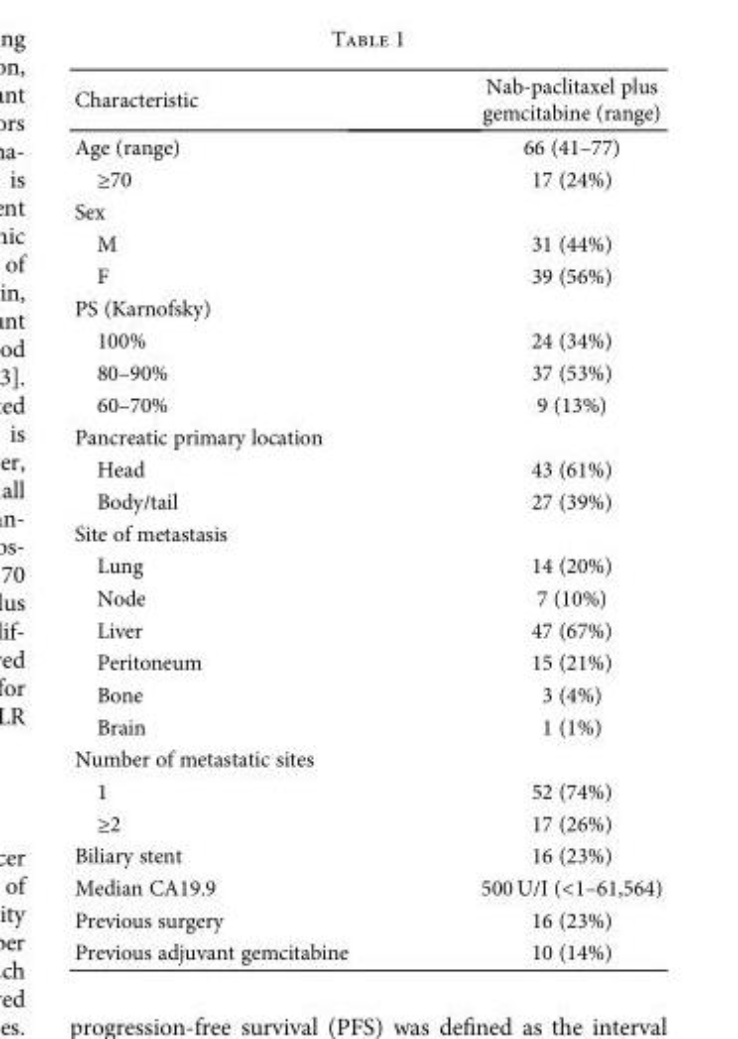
<table><thead><tr><td>Characteristic</td><td>Nab-paclitaxel plus gemcitabine (range)</td></tr></thead><tbody><tr><td>Age (range)</td><td>66 (41–77)</td></tr><tr><td>≥70</td><td>17 (24%)</td></tr><tr><td colspan="2">Sex</td></tr><tr><td>M</td><td>31 (44%)</td></tr><tr><td>F</td><td>39 (56%)</td></tr><tr><td colspan="2">PS (Karnofsky)</td></tr><tr><td>100%</td><td>24 (34%)</td></tr><tr><td>80–90%</td><td>37 (53%)</td></tr><tr><td>60–70%</td><td>9 (13%)</td></tr><tr><td colspan="2">Pancreatic primary location</td></tr><tr><td>Head</td><td>43 (61%)</td></tr><tr><td>Body/tail</td><td>27 (39%)</td></tr><tr><td colspan="2">Site of metastasis</td></tr><tr><td>Lung</td><td>14 (20%)</td></tr><tr><td>Node</td><td>7 (10%)</td></tr><tr><td>Liver</td><td>47 (67%)</td></tr><tr><td>Peritoneum</td><td>15 (21%)</td></tr><tr><td>Bone</td><td>3 (4%)</td></tr><tr><td>Brain</td><td>1 (1%)</td></tr><tr><td colspan="2">Number of metastatic sites</td></tr><tr><td>1</td><td>52 (74%)</td></tr><tr><td>≥2</td><td>17 (26%)</td></tr><tr><td>Biliary stent</td><td>16 (23%)</td></tr><tr><td>Median CA19.9</td><td>500 U/I (&lt;1–61,564)</td></tr><tr><td>Previous surgery</td><td>16 (23%)</td></tr><tr><td>Previous adjuvant gemcitabine</td><td>10 (14%)</td></tr></tbody></table>